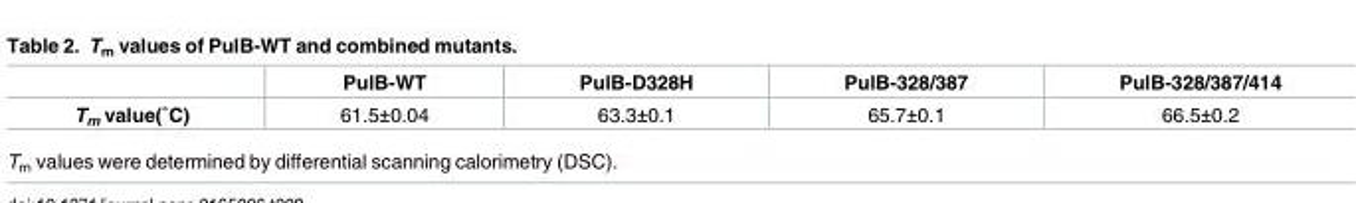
<table><thead><tr><td></td><td>PulB-WT</td><td>PulB-D328H</td><td>PulB-328/387</td><td>PulB-328/387/414</td></tr></thead><tbody><tr><td>Tm value(˚C)</td><td>61.5±0.04</td><td>63.3±0.1</td><td>65.7±0.1</td><td>66.5±0.2</td></tr></tbody></table>